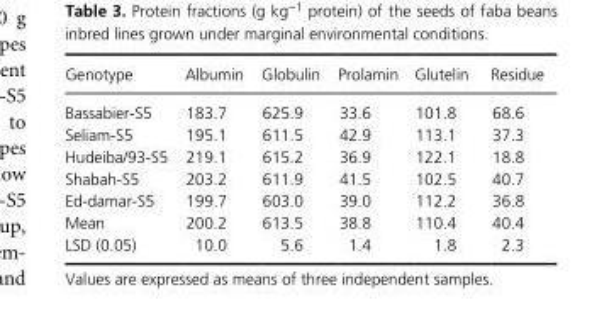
<table><thead><tr><td>Genotype</td><td>Albumin</td><td>Globulin</td><td>Prolamin</td><td>Glutelin</td><td>Residue</td></tr></thead><tbody><tr><td>Bassabier- S5</td><td>183.7</td><td>625.9</td><td>33.6</td><td>101.8</td><td>68.6</td></tr><tr><td>Seliam- S5</td><td>195.1</td><td>611.5</td><td>42.9</td><td>113.1</td><td>37.3</td></tr><tr><td>Hudeiba/93- S5</td><td>219.1</td><td>615.2</td><td>36.9</td><td>122.1</td><td>18.8</td></tr><tr><td>Shabah- S5</td><td>203.2</td><td>611.9</td><td>41.5</td><td>102.5</td><td>40.7</td></tr><tr><td>Ed- damar- S5</td><td>199.7</td><td>603.0</td><td>39.0</td><td>112.2</td><td>36.8</td></tr><tr><td>Mean</td><td>200.2</td><td>613.5</td><td>38.8</td><td>110.4</td><td>40.4</td></tr><tr><td>LSD (0.05)</td><td>10.0</td><td>5.6</td><td>1.4</td><td>1.8</td><td>2.3</td></tr></tbody></table>